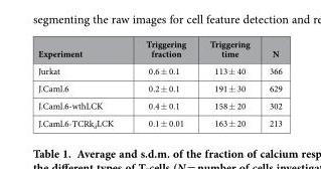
<table><thead><tr><td>Experiment</td><td>Triggering fraction</td><td>Triggering time</td><td>N</td></tr></thead><tbody><tr><td>Jurkat</td><td>0.6 ± 0.1</td><td>113 ± 40</td><td>366</td></tr><tr><td>J.Caml.6</td><td>0.2 ± 0.1</td><td>191 ± 30</td><td>629</td></tr><tr><td>J.Caml.6-wthLCK</td><td>0.4 ± 0.1</td><td>158 ± 20</td><td>302</td></tr><tr><td>J.Caml.6-TCRk<sub>d</sub>LCK</td><td>0.1 ± 0.01</td><td>163 ± 20</td><td>213</td></tr></tbody></table>